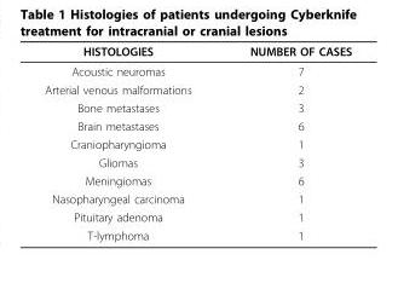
<table><thead><tr><td>HISTOLOGIES</td><td>NUMBER OF CASES</td></tr></thead><tbody><tr><td>Acoustic neuromas</td><td>7</td></tr><tr><td>Arterial venous malformations</td><td>2</td></tr><tr><td>Bone metastases</td><td>3</td></tr><tr><td>Brain metastases</td><td>6</td></tr><tr><td>Craniopharyngioma</td><td>1</td></tr><tr><td>Gliomas</td><td>3</td></tr><tr><td>Meningiomas</td><td>6</td></tr><tr><td>Nasopharyngeal carcinoma</td><td>1</td></tr><tr><td>Pituitary adenoma</td><td>1</td></tr><tr><td>T-lymphoma</td><td>1</td></tr></tbody></table>